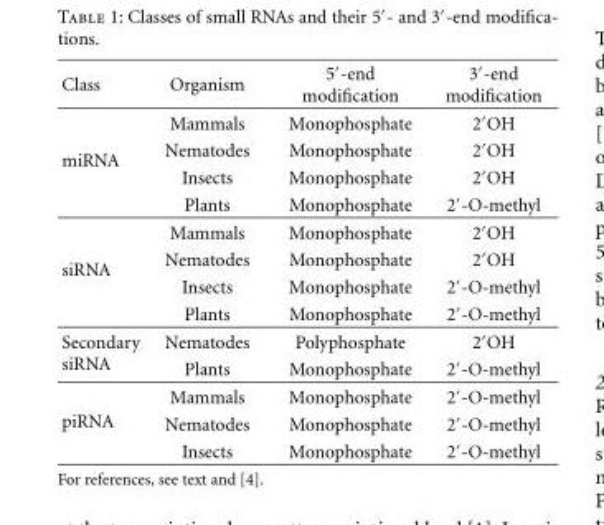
<table><thead><tr><td>Class</td><td>Organism</td><td>5′-end modification</td><td>3′-end modification</td></tr></thead><tbody><tr><td rowspan="4">miRNA</td><td>Mammals</td><td>Monophosphate</td><td>2′OH</td></tr><tr><td>Nematodes</td><td>Monophosphate</td><td>2′OH</td></tr><tr><td>Insects</td><td>Monophosphate</td><td>2′OH</td></tr><tr><td>Plants</td><td>Monophosphate</td><td>2′-O-methyl</td></tr><tr><td rowspan="4">siRNA</td><td>Mammals</td><td>Monophosphate</td><td>2′OH</td></tr><tr><td>Nematodes</td><td>Monophosphate</td><td>2′OH</td></tr><tr><td>Insects</td><td>Monophosphate</td><td>2′-O-methyl</td></tr><tr><td>Plants</td><td>Monophosphate</td><td>2′-O-methyl</td></tr><tr><td rowspan="2">Secondary siRNA</td><td>Nematodes</td><td>Polyphosphate</td><td>2′OH</td></tr><tr><td>Plants</td><td>Monophosphate</td><td>2′-O-methyl</td></tr><tr><td rowspan="3">piRNA</td><td>Mammals</td><td>Monophosphate</td><td>2′-O-methyl</td></tr><tr><td>Nematodes</td><td>Monophosphate</td><td>2′-O-methyl</td></tr><tr><td>Insects</td><td>Monophosphate</td><td>2′-O-methyl</td></tr></tbody></table>